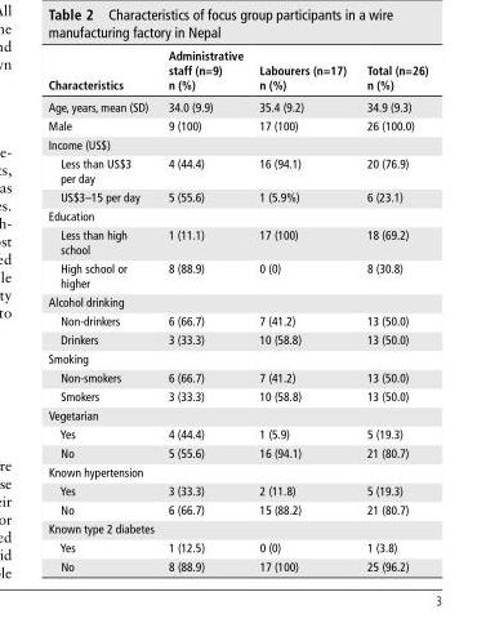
<table><thead><tr><td>characteristics</td><td>Administrative staff (n=9) n (%)</td><td>labourers (n=17) n (%)</td><td>total (n=26) n (%)</td></tr></thead><tbody><tr><td>Age, years, mean (SD)</td><td>34.0 (9.9)</td><td>35.4 (9.2)</td><td>34.9 (9.3)</td></tr><tr><td>Male</td><td>9 (100)</td><td>17 (100)</td><td>26 (100.0)</td></tr><tr><td colspan="4">Income (US$)</td></tr><tr><td>Less than US$3 per day</td><td>4 (44.4)</td><td>16 (94.1)</td><td>20 (76.9)</td></tr><tr><td>US$3–15 per day</td><td>5 (55.6)</td><td>1 (5.9%)</td><td>6 (23.1)</td></tr><tr><td colspan="4">Education</td></tr><tr><td>Less than high school</td><td>1 (11.1)</td><td>17 (100)</td><td>18 (69.2)</td></tr><tr><td>High school or higher</td><td>8 (88.9)</td><td>0 (0)</td><td>8 (30.8)</td></tr><tr><td colspan="4">Alcohol drinking</td></tr><tr><td>Non-drinkers</td><td>6 (66.7)</td><td>7 (41.2)</td><td>13 (50.0)</td></tr><tr><td>Drinkers</td><td>3 (33.3)</td><td>10 (58.8)</td><td>13 (50.0)</td></tr><tr><td colspan="4">Smoking</td></tr><tr><td>Non-smokers</td><td>6 (66.7)</td><td>7 (41.2)</td><td>13 (50.0)</td></tr><tr><td>Smokers</td><td>3 (33.3)</td><td>10 (58.8)</td><td>13 (50.0)</td></tr><tr><td colspan="4">Vegetarian</td></tr><tr><td>Yes</td><td>4 (44.4)</td><td>1 (5.9)</td><td>5 (19.3)</td></tr><tr><td>No</td><td>5 (55.6)</td><td>16 (94.1)</td><td>21 (80.7)</td></tr><tr><td colspan="4">Known hypertension</td></tr><tr><td>Yes</td><td>3 (33.3)</td><td>2 (11.8)</td><td>5 (19.3)</td></tr><tr><td>No</td><td>6 (66.7)</td><td>15 (88.2)</td><td>21 (80.7)</td></tr><tr><td colspan="4">Known type 2 diabetes</td></tr><tr><td>Yes</td><td>1 (12.5)</td><td>0 (0)</td><td>1 (3.8)</td></tr><tr><td>No</td><td>8 (88.9)</td><td>17 (100)</td><td>25 (96.2)</td></tr></tbody></table>